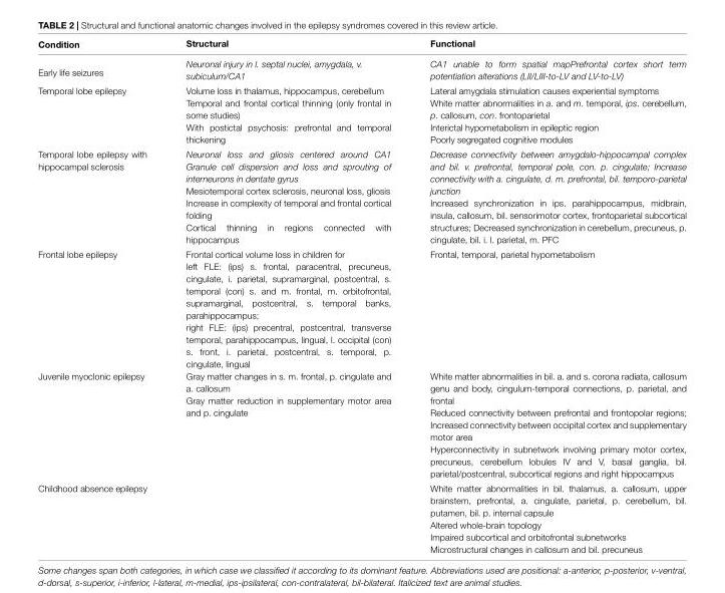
<table><thead><tr><td>Condition</td><td>Structural</td><td>Functional</td></tr></thead><tbody><tr><td>Early life seizures</td><td>Neuronal injury in l. septal nuclei, amygdala, v. subiculum/CA1</td><td>CA1 unable to form spatial mapPrefrontal cortex short term potentiation alterations (LII/LIII-to-LV and LV-to-LV)</td></tr><tr><td>Temporal lobe epilepsy</td><td>Volume loss in thalamus, hippocampus, cerebellum Temporal and frontal cortical thinning (only frontal in some studies) With postictal psychosis: prefrontal and temporal thickening</td><td>Lateral amygdala stimulation causes experiential symptoms White matter abnormalities in a. and m. temporal, ips. cerebellum, p. callosum, con. frontoparietal Interictal hypometabolism in epileptic region Poorly segregated cognitive modules</td></tr><tr><td>Temporal lobe epilepsy with hippocampal sclerosis</td><td>Neuronal loss and gliosis centered around CA1 Granule cell dispersion and loss and sprouting of interneurons in dentate gyrus Mesiotemporal cortex sclerosis, neuronal loss, gliosis Increase in complexity of temporal and frontal cortical folding Cortical thinning in regions connected with hippocampus</td><td>Decrease connectivity between amygdalo-hippocampal complex and bil. v. prefrontal, temporal pole, con. p. cingulate; Increase connectivity with a. cingulate, d. m. prefrontal, bil. temporo-parietal junction Increased synchronization in ips. parahippocampus, midbrain, insula, callosum, bil. sensorimotor cortex, frontoparietal subcortical structures; Decreased synchronization in cerebellum, precuneus, p. cingulate, bil. i. l. parietal, m. PFC</td></tr><tr><td>Frontal lobe epilepsy</td><td>Frontal cortical volume loss in children for left FLE: (ips) s. frontal, paracentral, precuneus, cingulate, i. parietal, supramarginal, postcentral, s. temporal (con) s. and m. frontal, m. orbitofrontal, supramarginal, postcentral, s. temporal banks, parahippocampus; right FLE: (ips) precentral, postcentral, transverse temporal, parahippocampus, lingual, l. occipital (con) s. front, i. parietal, postcentral, s. temporal, p. cingulate, lingual</td><td>Frontal, temporal, parietal hypometabolism</td></tr><tr><td>Juvenile myoclonic epilepsy</td><td>Gray matter changes in s. m. frontal, p. cingulate and a. callosum Gray matter reduction in supplementary motor area and p. cingulate</td><td>White matter abnormalities in bil. a. and s. corona radiata, callosum genu and body, cingulum-temporal connections, p. parietal, and frontal Reduced connectivity between prefrontal and frontopolar regions; Increased connectivity between occipital cortex and supplementary motor area Hyperconnectivity in subnetwork involving primary motor cortex, precuneus, cerebellum lobules IV and V, basal ganglia, bil. parietal/postcentral, subcortical regions and right hippocampus</td></tr><tr><td>Childhood absence epilepsy</td><td></td><td>White matter abnormalities in bil. thalamus, a. callosum, upper brainstem, prefrontal, a. cingulate, parietal, p. cerebellum, bil. putamen, bil. p. internal capsule Altered whole-brain topology Impaired subcortical and orbitofrontal subnetworks Microstructural changes in callosum and bil. precuneus</td></tr></tbody></table>